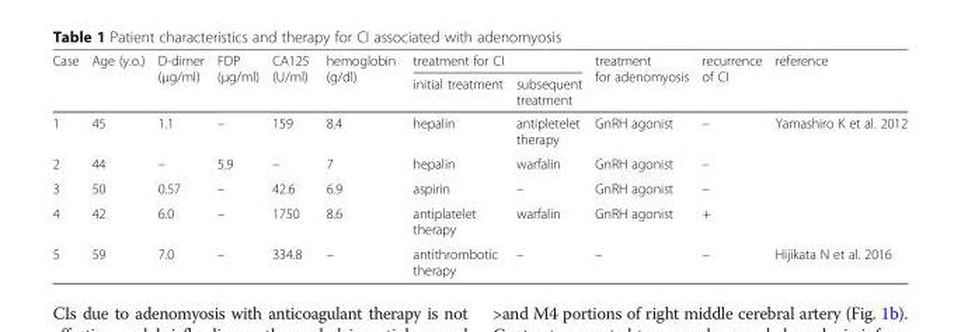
<table><thead><tr><td rowspan="2">Case</td><td rowspan="2">Age (y.o.)</td><td rowspan="2">D-dimer (μg/ml)</td><td rowspan="2">FDP (μg/ml)</td><td rowspan="2">CA125 (U/ml)</td><td rowspan="2">hemoglobin (g/dl)</td><td colspan="2">treatment for CI</td><td rowspan="2">treatment for adenomyosis</td><td rowspan="2">recurrence of CI</td><td rowspan="2">reference</td></tr><tr><td>initial treatment</td><td>subsequent treatment</td></tr></thead><tbody><tr><td>1</td><td>45</td><td>1.1</td><td>–</td><td>159</td><td>8.4</td><td>hepalin</td><td>antipletelet therapy</td><td>GnRH agonist</td><td>–</td><td rowspan="4">Yamashiro K et al. 2012</td></tr><tr><td>2</td><td>44</td><td>–</td><td>5.9</td><td>–</td><td>7</td><td>hepalin</td><td>warfalin</td><td>GnRH agonist</td><td>–</td></tr><tr><td>3</td><td>50</td><td>0.57</td><td>–</td><td>42.6</td><td>6.9</td><td>aspirin</td><td>–</td><td>GnRH agonist</td><td>–</td></tr><tr><td>4</td><td>42</td><td>6.0</td><td>–</td><td>1750</td><td>8.6</td><td>antiplatelet therapy</td><td>warfalin</td><td>GnRH agonist</td><td>+</td></tr><tr><td>5</td><td>59</td><td>7.0</td><td>–</td><td>334.8</td><td>–</td><td>antithrombotic therapy</td><td>–</td><td>–</td><td>–</td><td>Hijikata N et al. 2016</td></tr></tbody></table>